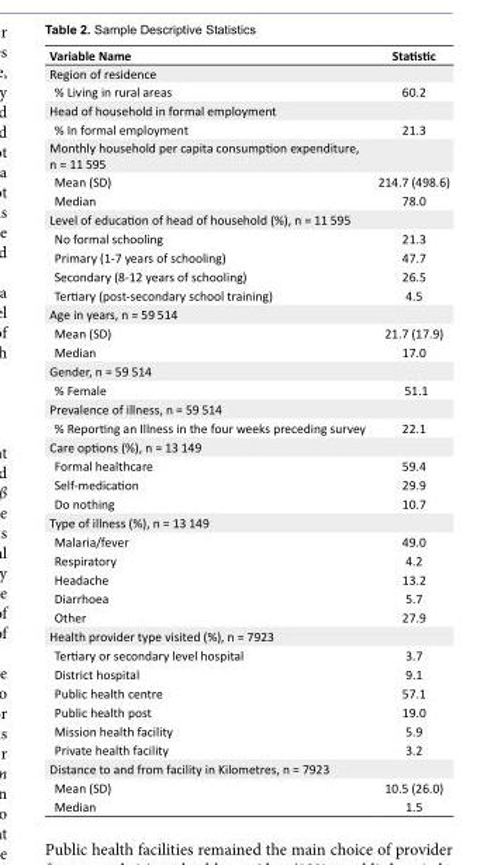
<table><tbody><tr><td>Variable Name</td><td>Statistic</td></tr><tr><td colspan="2">Region of residence</td></tr><tr><td>% Living in rural areas</td><td>60.2</td></tr><tr><td colspan="2">Head of household in formal employment</td></tr><tr><td>% In formal employment</td><td>21.3</td></tr><tr><td colspan="2">Monthly household per capita consumption expenditure, n = 11 595</td></tr><tr><td>Mean (SD)</td><td>214.7 (498.6)</td></tr><tr><td>Median</td><td>78.0</td></tr><tr><td colspan="2">Level of education of head of household (%), n = 11 595</td></tr><tr><td>No formal schooling</td><td>21.3</td></tr><tr><td>Primary (1-7 years of schooling)</td><td>47.7</td></tr><tr><td>Secondary (8-12 years of schooling)</td><td>26.5</td></tr><tr><td>Tertiary (post-secondary school training)</td><td>4.5</td></tr><tr><td colspan="2">Age in years, n = 59 514</td></tr><tr><td>Mean (SD)</td><td>21.7 (17.9)</td></tr><tr><td>Median</td><td>17.0</td></tr><tr><td colspan="2">Gender, n = 59 514</td></tr><tr><td>% Female</td><td>51.1</td></tr><tr><td colspan="2">Prevalence of illness, n = 59 514</td></tr><tr><td>% Reporting an Illness in the four weeks preceding survey</td><td>22.1</td></tr><tr><td colspan="2">Care options (%), n = 13 149</td></tr><tr><td>Formal healthcare</td><td>59.4</td></tr><tr><td>Self-medication</td><td>29.9</td></tr><tr><td>Do nothing</td><td>10.7</td></tr><tr><td colspan="2">Type of illness (%), n = 13 149</td></tr><tr><td>Malaria/fever</td><td>49.0</td></tr><tr><td>Respiratory</td><td>4.2</td></tr><tr><td>Headache</td><td>13.2</td></tr><tr><td>Diarrhoea</td><td>5.7</td></tr><tr><td>Other</td><td>27.9</td></tr><tr><td colspan="2">Health provider type visited (%), n = 7923</td></tr><tr><td>Tertiary or secondary level hospital</td><td>3.7</td></tr><tr><td>District hospital</td><td>9.1</td></tr><tr><td>Public health centre</td><td>57.1</td></tr><tr><td>Public health post</td><td>19.0</td></tr><tr><td>Mission health facility</td><td>5.9</td></tr><tr><td>Private health facility</td><td>3.2</td></tr><tr><td colspan="2">Distance to and from facility in Kilometres, n = 7923</td></tr><tr><td>Mean (SD)</td><td>10.5 (26.0)</td></tr><tr><td>Median</td><td>1.5</td></tr></tbody></table>